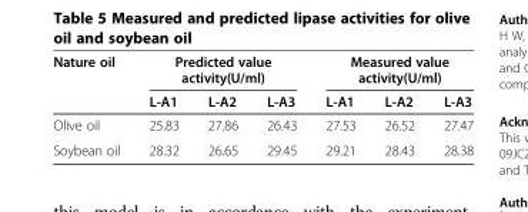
<table><thead><tr><td rowspan="2">Nature oil</td><td colspan="3">Predicted value activity(U/ml)</td><td colspan="3">Measured value activity(U/ml)</td></tr><tr><td>L-A1</td><td>L-A2</td><td>L-A3</td><td>L-A1</td><td>L-A2</td><td>L-A3</td></tr></thead><tbody><tr><td>Olive oil</td><td>25.83</td><td>27.86</td><td>26.43</td><td>27.53</td><td>26.52</td><td>27.47</td></tr><tr><td>Soybean oil</td><td>28.32</td><td>26.65</td><td>29.45</td><td>29.21</td><td>28.43</td><td>28.38</td></tr></tbody></table>